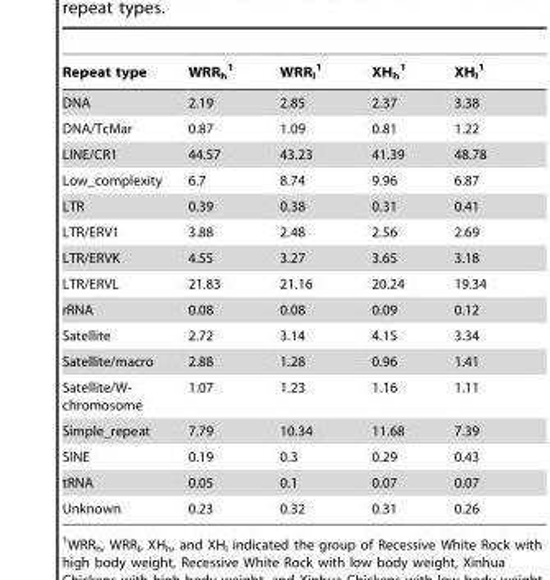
<table><thead><tr><td>Repeat type</td><td>WRR<sub>h</sub> 1</td><td>WRR<sub>l</sub> 1</td><td>XH<sub>h</sub> 1</td><td>XH<sub>l</sub> 1</td></tr></thead><tbody><tr><td>DNA</td><td>2.19</td><td>2.85</td><td>2.37</td><td>3.38</td></tr><tr><td>DNA/TcMar</td><td>0.87</td><td>1.09</td><td>0.81</td><td>1.22</td></tr><tr><td>LINE/CR1</td><td>44.57</td><td>43.23</td><td>41.39</td><td>48.78</td></tr><tr><td>Low_complexity</td><td>6.7</td><td>8.74</td><td>9.96</td><td>6.87</td></tr><tr><td>LTR</td><td>0.39</td><td>0.38</td><td>0.31</td><td>0.41</td></tr><tr><td>LTR/ERV1</td><td>3.88</td><td>2.48</td><td>2.56</td><td>2.69</td></tr><tr><td>LTR/ERVK</td><td>4.55</td><td>3.27</td><td>3.65</td><td>3.18</td></tr><tr><td>LTR/ERVL</td><td>21.83</td><td>21.16</td><td>20.24</td><td>19.34</td></tr><tr><td>rRNA</td><td>0.08</td><td>0.08</td><td>0.09</td><td>0.12</td></tr><tr><td>Satellite</td><td>2.72</td><td>3.14</td><td>4.15</td><td>3.34</td></tr><tr><td>Satellite/macro</td><td>2.88</td><td>1.28</td><td>0.96</td><td>1.41</td></tr><tr><td>Satellite/W- chromosome</td><td>1.07</td><td>1.23</td><td>1.16</td><td>1.11</td></tr><tr><td>Simple_repeat</td><td>7.79</td><td>10.34</td><td>11.68</td><td>7.39</td></tr><tr><td>SINE</td><td>0.19</td><td>0.3</td><td>0.29</td><td>0.43</td></tr><tr><td>tRNA</td><td>0.05</td><td>0.1</td><td>0.07</td><td>0.07</td></tr><tr><td>Unknown</td><td>0.23</td><td>0.32</td><td>0.31</td><td>0.26</td></tr></tbody></table>